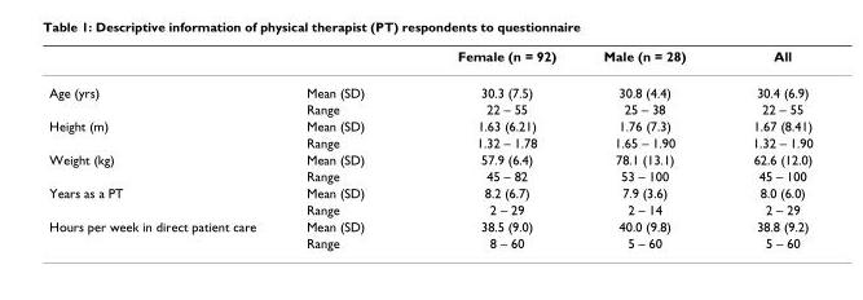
<table><thead><tr><td></td><td></td><td>Female (n = 92)</td><td>Male (n = 28)</td><td>All</td></tr></thead><tbody><tr><td rowspan="2">Age (yrs)</td><td>Mean (SD)</td><td>30.3 (7.5)</td><td>30.8 (4.4)</td><td>30.4 (6.9)</td></tr><tr><td>Range</td><td>22 – 55</td><td>25 – 38</td><td>22 – 55</td></tr><tr><td rowspan="2">Height (m)</td><td>Mean (SD)</td><td>1.63 (6.21)</td><td>1.76 (7.3)</td><td>1.67 (8.41)</td></tr><tr><td>Range</td><td>1.32 – 1.78</td><td>1.65 – 1.90</td><td>1.32 – 1.90</td></tr><tr><td rowspan="2">Weight (kg)</td><td>Mean (SD)</td><td>57.9 (6.4)</td><td>78.1 (13.1)</td><td>62.6 (12.0)</td></tr><tr><td>Range</td><td>45 – 82</td><td>53 – 100</td><td>45 – 100</td></tr><tr><td rowspan="2">Years as a PT</td><td>Mean (SD)</td><td>8.2 (6.7)</td><td>7.9 (3.6)</td><td>8.0 (6.0)</td></tr><tr><td>Range</td><td>2 – 29</td><td>2 – 14</td><td>2 – 29</td></tr><tr><td rowspan="2">Hours per week in direct patient care</td><td>Mean (SD)</td><td>38.5 (9.0)</td><td>40.0 (9.8)</td><td>38.8 (9.2)</td></tr><tr><td>Range</td><td>8 – 60</td><td>5 – 60</td><td>5 – 60</td></tr></tbody></table>